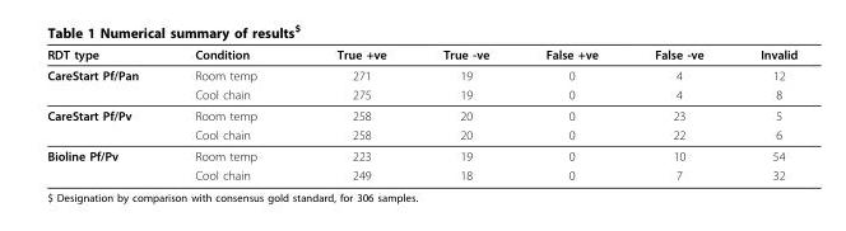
<table><thead><tr><td>RDT type</td><td>Condition</td><td>True +ve</td><td>True -ve</td><td>False +ve</td><td>False -ve</td><td>Invalid</td></tr></thead><tbody><tr><td rowspan="2">CareStart Pf/Pan</td><td>Room temp</td><td>271</td><td>19</td><td>0</td><td>4</td><td>12</td></tr><tr><td>Cool chain</td><td>275</td><td>19</td><td>0</td><td>4</td><td>8</td></tr><tr><td rowspan="2">CareStart Pf/Pv</td><td>Room temp</td><td>258</td><td>20</td><td>0</td><td>23</td><td>5</td></tr><tr><td>Cool chain</td><td>258</td><td>20</td><td>0</td><td>22</td><td>6</td></tr><tr><td rowspan="2">Bioline Pf/Pv</td><td>Room temp</td><td>223</td><td>19</td><td>0</td><td>10</td><td>54</td></tr><tr><td>Cool chain</td><td>249</td><td>18</td><td>0</td><td>7</td><td>32</td></tr></tbody></table>